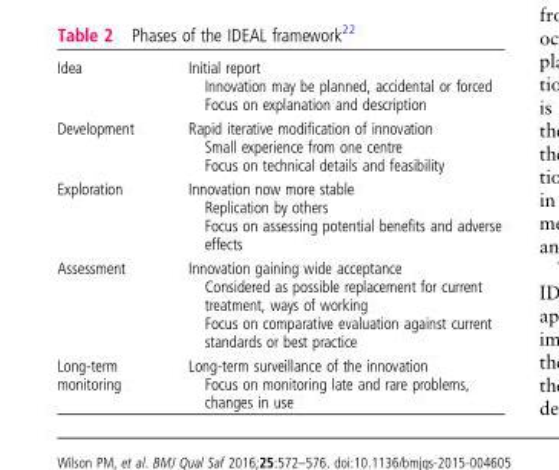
<table><tbody><tr><td>Idea</td><td>Initial report Innovation may be planned, accidental or forced Focus on explanation and description</td></tr><tr><td>Development</td><td>Rapid iterative modification of innovation Small experience from one centre Focus on technical details and feasibility</td></tr><tr><td>Exploration</td><td>Innovation now more stable Replication by others Focus on assessing potential benefits and adverse effects</td></tr><tr><td>Assessment</td><td>Innovation gaining wide acceptance Considered as possible replacement for current treatment, ways of working Focus on comparative evaluation against current standards or best practice</td></tr><tr><td>Long-term monitoring</td><td>Long-term surveillance of the innovation Focus on monitoring late and rare problems, changes in use</td></tr></tbody></table>